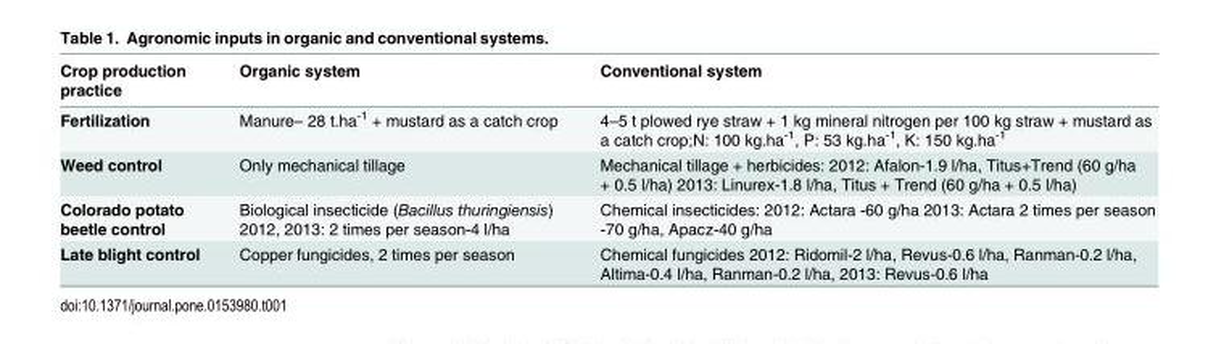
<table><thead><tr><td>Crop production practice</td><td>Organic system</td><td>Conventional system</td></tr></thead><tbody><tr><td>Fertilization</td><td>Manure– 28 t.ha<sup>-1</sup> + mustard as a catch crop</td><td>4–5 t plowed rye straw + 1 kg mineral nitrogen per 100 kg straw + mustard as a catch crop;N: 100 kg.ha<sup>-1</sup>, P: 53 kg.ha<sup>-1</sup>, K: 150 kg.ha<sup>-1</sup></td></tr><tr><td>Weed control</td><td>Only mechanical tillage</td><td>Mechanical tillage + herbicides: 2012: Afalon-1.9 l/ha, Titus+Trend (60 g/ha + 0.5 l/ha) 2013: Linurex-1.8 l/ha, Titus + Trend (60 g/ha + 0.5 l/ha)</td></tr><tr><td>Colorado potato beetle control</td><td>Biological insecticide (Bacillus thuringiensis) 2012, 2013: 2 times per season-4 l/ha</td><td>Chemical insecticides: 2012: Actara -60 g/ha 2013: Actara 2 times per season -70 g/ha, Apacz-40 g/ha</td></tr><tr><td>Late blight control</td><td>Copper fungicides, 2 times per season</td><td>Chemical fungicides 2012: Ridomil-2 l/ha, Revus-0.6 l/ha, Ranman-0.2 l/ha, Altima-0.4 l/ha, Ranman-0.2 l/ha, 2013: Revus-0.6 l/ha</td></tr></tbody></table>